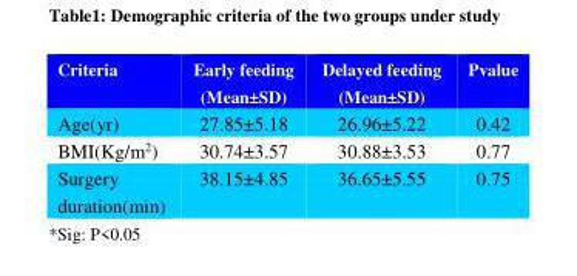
<table><thead><tr><td>Criteria</td><td>Early feeding (Mean±SD)</td><td>Delayed feeding (Mean±SD)</td><td>Pvalue</td></tr></thead><tbody><tr><td>Age(yr)</td><td>27.85±5.18</td><td>26.96±5.22</td><td>0.42</td></tr><tr><td>BMI(Kg/m<sup>2</sup>)</td><td>30.74±3.57</td><td>30.88±3.53</td><td>0.77</td></tr><tr><td>Surgery duration(min)</td><td>38.15±4.85</td><td>36.65±5.55</td><td>0.75</td></tr></tbody></table>